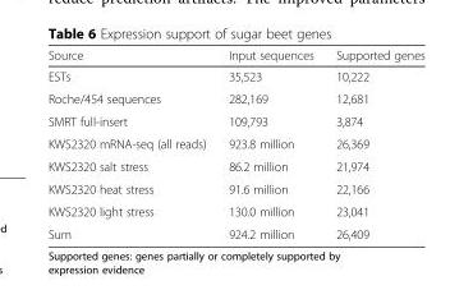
<table><thead><tr><td>Source</td><td>Input sequences</td><td>Supported genes</td></tr></thead><tbody><tr><td>ESTs</td><td>35,523</td><td>10,222</td></tr><tr><td>Roche/454 sequences</td><td>282,169</td><td>12,681</td></tr><tr><td>SMRT full-insert</td><td>109,793</td><td>3,874</td></tr><tr><td>KWS2320 mRNA-seq (all reads)</td><td>923.8 million</td><td>26,369</td></tr><tr><td>KWS2320 salt stress</td><td>86.2 million</td><td>21,974</td></tr><tr><td>KWS2320 heat stress</td><td>91.6 million</td><td>22,166</td></tr><tr><td>KWS2320 light stress</td><td>130.0 million</td><td>23,041</td></tr><tr><td>Sum</td><td>924.2 million</td><td>26,409</td></tr></tbody></table>